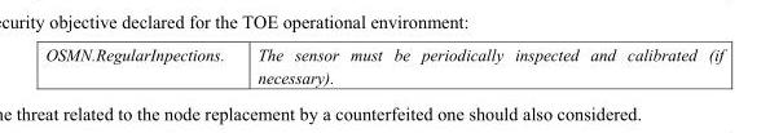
<table><tbody><tr><td>OSMN.RegularInpections.</td><td>The sensor must be periodically inspected and calibrated (if necessary).</td></tr></tbody></table>